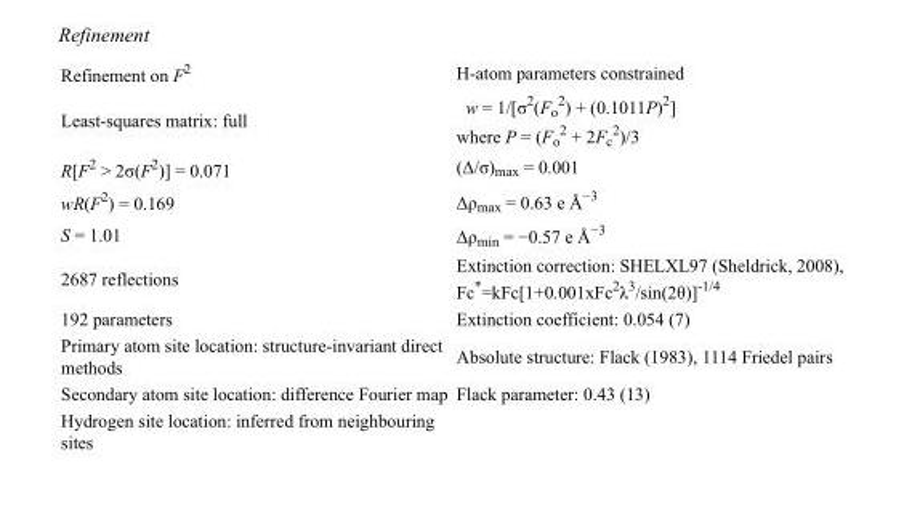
<table><tbody><tr><td>Refinement on F<sup>2</sup></td><td>H-atom parameters constrained</td></tr><tr><td>Least-squares matrix: full</td><td>w = 1/[σ<sup>2</sup>(F<sub>o</sub> <sup>2</sup>) + (0.1011P)<sup>2</sup>] where P = (F<sub>o</sub> <sup>2</sup> + 2F<sub>c</sub> <sup>2</sup>)/3</td></tr><tr><td>R[F<sup>2</sup> &gt; 2σ(F<sup>2</sup>)] = 0.071</td><td>(Δ/σ)<sub>max</sub> = 0.001</td></tr><tr><td>wR(F<sup>2</sup>) = 0.169</td><td>Δρ<sub>max</sub> = 0.63 e Å<sup>−3</sup></td></tr><tr><td>S = 1.01</td><td>Δρ<sub>min</sub> = −0.57 e Å<sup>−3</sup></td></tr><tr><td>2687 reflections</td><td>Extinction correction: SHELXL97 (Sheldrick, 2008), Fc*=kFc[1+0.001xFc<sup>2</sup>λ<sup>3</sup>/sin(2θ)]<sup>-1/4</sup></td></tr><tr><td>192 parameters</td><td>Extinction coefficient: 0.054 (7)</td></tr><tr><td>Primary atom site location: structure-invariant direct methods</td><td>Absolute structure: Flack (1983), 1114 Friedel pairs</td></tr><tr><td>Secondary atom site location: difference Fourier map</td><td>Flack parameter: 0.43 (13)</td></tr><tr><td>Hydrogen site location: inferred from neighbouring sites</td><td></td></tr></tbody></table>